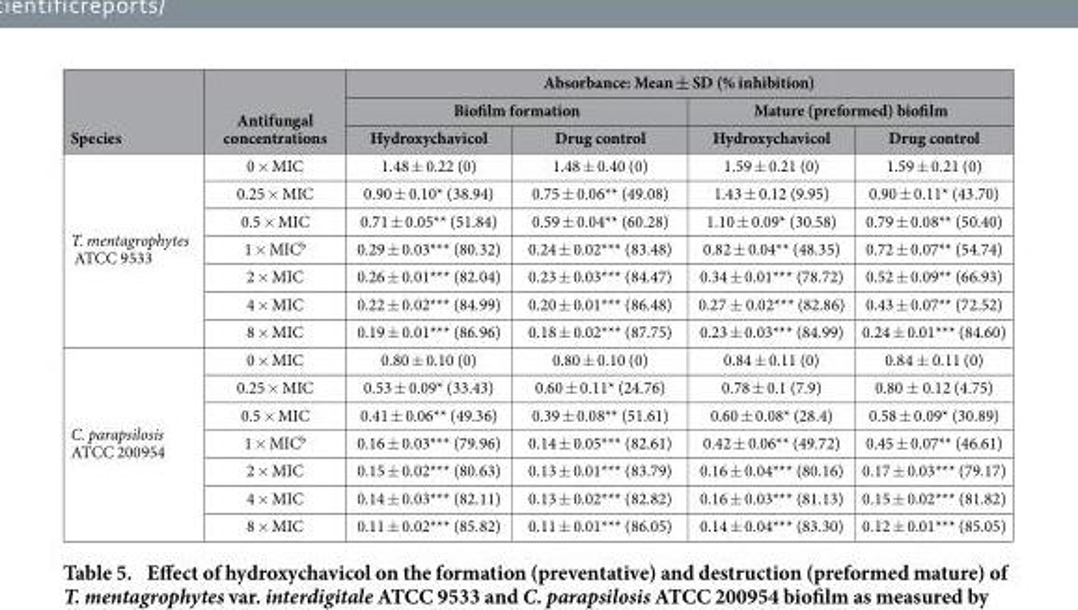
<table><thead><tr><td rowspan="3">Species</td><td rowspan="3">Antifungal concentrations</td><td colspan="4">Absorbance: Mean ± SD (% inhibition)</td></tr><tr><td colspan="2">Biofilm formation</td><td colspan="2">Mature (preformed) biofilm</td></tr><tr><td>Hydroxychavicol</td><td>Drug control</td><td>Hydroxychavicol</td><td>Drug control</td></tr></thead><tbody><tr><td rowspan="7">T. mentagrophytes ATCC 9533</td><td>0 × MIC</td><td>1.48 ± 0.22 (0)</td><td>1.48 ± 0.40 (0)</td><td>1.59 ± 0.21 (0)</td><td>1.59 ± 0.21 (0)</td></tr><tr><td>0.25 × MIC</td><td>0.90 ± 0.10* (38.94)</td><td>0.75 ± 0.06** (49.08)</td><td>1.43 ± 0.12 (9.95)</td><td>0.90 ± 0.11* (43.70)</td></tr><tr><td>0.5 × MIC</td><td>0.71 ± 0.05** (51.84)</td><td>0.59 ± 0.04** (60.28)</td><td>1.10 ± 0.09* (30.58)</td><td>0.79 ± 0.08** (50.40)</td></tr><tr><td>1 × MIC<sup>b</sup></td><td>0.29 ± 0.03*** (80.32)</td><td>0.24 ± 0.02*** (83.48)</td><td>0.82 ± 0.04** (48.35)</td><td>0.72 ± 0.07** (54.74)</td></tr><tr><td>2 × MIC</td><td>0.26 ± 0.01*** (82.04)</td><td>0.23 ± 0.03*** (84.47)</td><td>0.34 ± 0.01*** (78.72)</td><td>0.52 ± 0.09** (66.93)</td></tr><tr><td>4 × MIC</td><td>0.22 ± 0.02*** (84.99)</td><td>0.20 ± 0.01*** (86.48)</td><td>0.27 ± 0.02*** (82.86)</td><td>0.43 ± 0.07** (72.52)</td></tr><tr><td>8 × MIC</td><td>0.19 ± 0.01*** (86.96)</td><td>0.18 ± 0.02*** (87.75)</td><td>0.23 ± 0.03*** (84.99)</td><td>0.24 ± 0.01*** (84.60)</td></tr><tr><td rowspan="7">C. parapsilosis ATCC 200954</td><td>0 × MIC</td><td>0.80 ± 0.10 (0)</td><td>0.80 ± 0.10 (0)</td><td>0.84 ± 0.11 (0)</td><td>0.84 ± 0.11 (0)</td></tr><tr><td>0.25 × MIC</td><td>0.53 ± 0.09* (33.43)</td><td>0.60 ± 0.11* (24.76)</td><td>0.78 ± 0.1 (7.9)</td><td>0.80 ± 0.12 (4.75)</td></tr><tr><td>0.5 × MIC</td><td>0.41 ± 0.06** (49.36)</td><td>0.39 ± 0.08** (51.61)</td><td>0.60 ± 0.08* (28.4)</td><td>0.58 ± 0.09* (30.89)</td></tr><tr><td>1 × MIC<sup>b</sup></td><td>0.16 ± 0.03*** (79.96)</td><td>0.14 ± 0.05*** (82.61)</td><td>0.42 ± 0.06** (49.72)</td><td>0.45 ± 0.07** (46.61)</td></tr><tr><td>2 × MIC</td><td>0.15 ± 0.02*** (80.63)</td><td>0.13 ± 0.01*** (83.79)</td><td>0.16 ± 0.04*** (80.16)</td><td>0.17 ± 0.03*** (79.17)</td></tr><tr><td>4 × MIC</td><td>0.14 ± 0.03*** (82.11)</td><td>0.13 ± 0.02*** (82.82)</td><td>0.16 ± 0.03*** (81.13)</td><td>0.15 ± 0.02*** (81.82)</td></tr><tr><td>8 × MIC</td><td>0.11 ± 0.02*** (85.82)</td><td>0.11 ± 0.01*** (86.05)</td><td>0.14 ± 0.04*** (83.30)</td><td>0.12 ± 0.01*** (85.05)</td></tr></tbody></table>